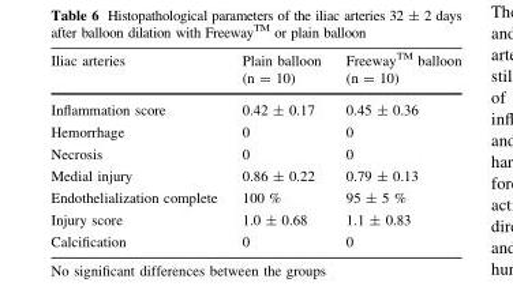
<table><thead><tr><td>Iliac arteries</td><td>Plain balloon (n = 10)</td><td>FreewayTM balloon (n = 10)</td></tr></thead><tbody><tr><td>Inflammation score</td><td>0.42 ± 0.17</td><td>0.45 ± 0.36</td></tr><tr><td>Hemorrhage</td><td>0</td><td>0</td></tr><tr><td>Necrosis</td><td>0</td><td>0</td></tr><tr><td>Medial injury</td><td>0.86 ± 0.22</td><td>0.79 ± 0.13</td></tr><tr><td>Endothelialization complete</td><td>100 %</td><td>95 ± 5 %</td></tr><tr><td>Injury score</td><td>1.0 ± 0.68</td><td>1.1 ± 0.83</td></tr><tr><td>Calcification</td><td>0</td><td>0</td></tr></tbody></table>